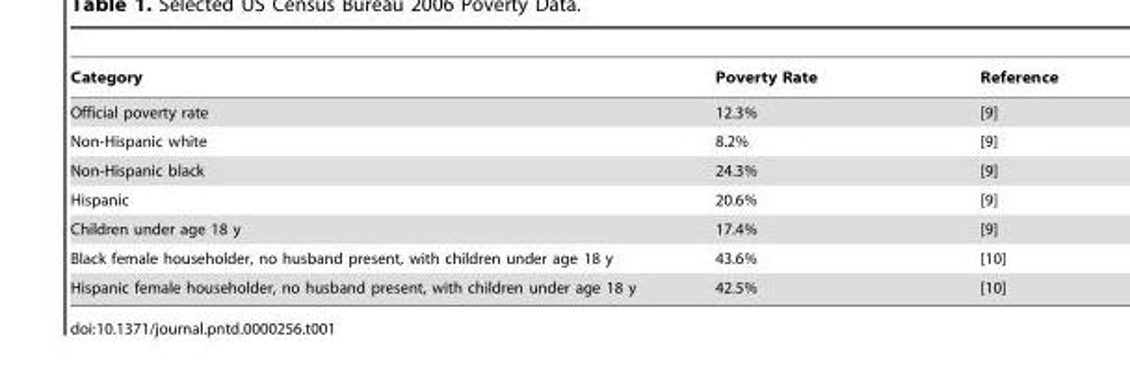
<table><thead><tr><td>Category</td><td>Poverty Rate</td><td>Reference</td></tr></thead><tbody><tr><td>Official poverty rate</td><td>12.3%</td><td>[9]</td></tr><tr><td>Non-Hispanic white</td><td>8.2%</td><td>[9]</td></tr><tr><td>Non-Hispanic black</td><td>24.3%</td><td>[9]</td></tr><tr><td>Hispanic</td><td>20.6%</td><td>[9]</td></tr><tr><td>Children under age 18 y</td><td>17.4%</td><td>[9]</td></tr><tr><td>Black female householder, no husband present, with children under age 18 y</td><td>43.6%</td><td>[10]</td></tr><tr><td>Hispanic female householder, no husband present, with children under age 18 y</td><td>42.5%</td><td>[10]</td></tr></tbody></table>